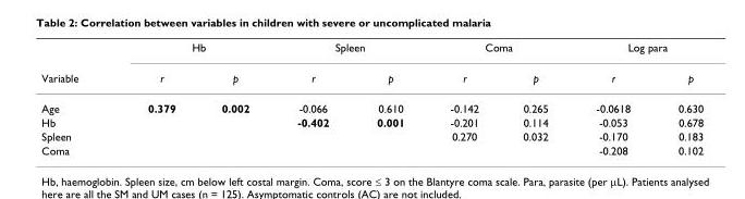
<table><thead><tr><td rowspan="2">Variable</td><td colspan="2">Hb</td><td colspan="2">Spleen</td><td colspan="2">Coma</td><td colspan="2">Log para</td></tr><tr><td>r</td><td>p</td><td>r</td><td>p</td><td>r</td><td>p</td><td>r</td><td>p</td></tr></thead><tbody><tr><td>Age</td><td>0.379</td><td>0.002</td><td>-0.066</td><td>0.610</td><td>-0.142</td><td>0.265</td><td>-0.0618</td><td>0.630</td></tr><tr><td>Hb</td><td></td><td></td><td>-0.402</td><td>0.001</td><td>-0.201</td><td>0.114</td><td>-0.053</td><td>0.678</td></tr><tr><td>Spleen</td><td></td><td></td><td></td><td></td><td>0.270</td><td>0.032</td><td>-0.170</td><td>0.183</td></tr><tr><td>Coma</td><td></td><td></td><td></td><td></td><td></td><td></td><td>-0.208</td><td>0.102</td></tr></tbody></table>